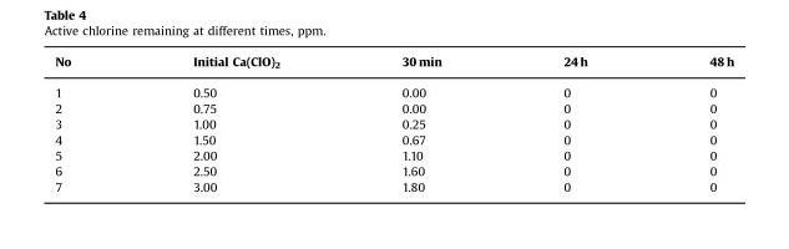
<table><thead><tr><td>No</td><td>Initial Ca(ClO)<sub>2</sub></td><td>30 min</td><td>24 h</td><td>48 h</td></tr></thead><tbody><tr><td>1</td><td>0.50</td><td>0.00</td><td>0</td><td>0</td></tr><tr><td>2</td><td>0.75</td><td>0.00</td><td>0</td><td>0</td></tr><tr><td>3</td><td>1.00</td><td>0.25</td><td>0</td><td>0</td></tr><tr><td>4</td><td>1.50</td><td>0.67</td><td>0</td><td>0</td></tr><tr><td>5</td><td>2.00</td><td>1.10</td><td>0</td><td>0</td></tr><tr><td>6</td><td>2.50</td><td>1.60</td><td>0</td><td>0</td></tr><tr><td>7</td><td>3.00</td><td>1.80</td><td>0</td><td>0</td></tr></tbody></table>